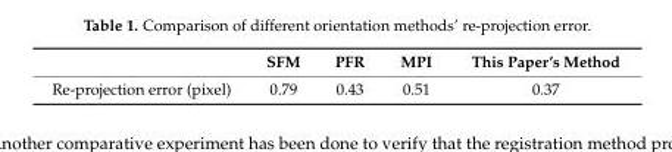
<table><thead><tr><td></td><td>SFM</td><td>PFR</td><td>MPI</td><td>This Paper’s Method</td></tr></thead><tbody><tr><td>Re-projection error (pixel)</td><td>0.79</td><td>0.43</td><td>0.51</td><td>0.37</td></tr></tbody></table>